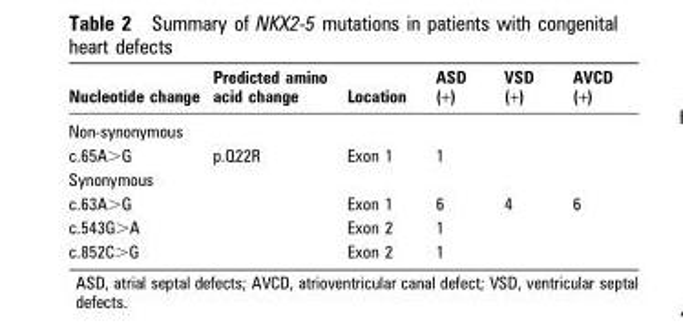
<table><thead><tr><td>Nucleotide change</td><td>Predicted amino acid change</td><td>Location</td><td>ASD (+)</td><td>VSD (+)</td><td>AVCD (+)</td></tr></thead><tbody><tr><td colspan="6">Non-synonymous</td></tr><tr><td>c.65A&gt;G</td><td>p.Q22R</td><td>Exon 1</td><td>1</td><td></td><td></td></tr><tr><td colspan="6">Synonymous</td></tr><tr><td>c.63A&gt;G</td><td></td><td>Exon 1</td><td>6</td><td>4</td><td>6</td></tr><tr><td>c.543G&gt;A</td><td></td><td>Exon 2</td><td>1</td><td></td><td></td></tr><tr><td>c.852C&gt;G</td><td></td><td>Exon 2</td><td>1</td><td></td><td></td></tr></tbody></table>